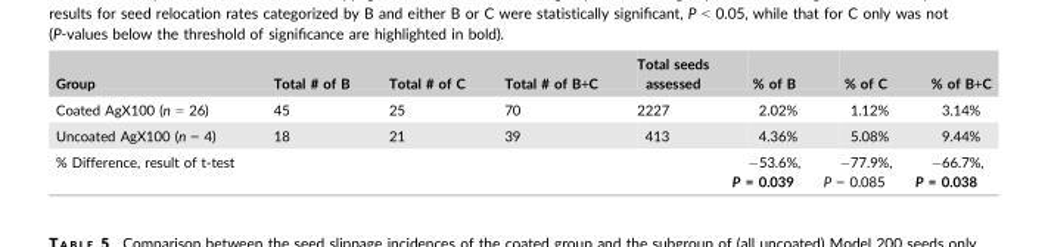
<table><thead><tr><td>Group</td><td>Total # of B</td><td>Total # of C</td><td>Total # of B+C</td><td>Total seeds assessed</td><td>% of B</td><td>% of C</td><td>% of B+C</td></tr></thead><tbody><tr><td>Coated AgX100 (n = 26)</td><td>45</td><td>25</td><td>70</td><td>2227</td><td>2.02%</td><td>1.12%</td><td>3.14%</td></tr><tr><td>Uncoated AgX100 (n = 4)</td><td>18</td><td>21</td><td>39</td><td>413</td><td>4.36%</td><td>5.08%</td><td>9.44%</td></tr><tr><td>% Difference, result of t-test</td><td></td><td></td><td></td><td></td><td>−53.6%, P = 0.039</td><td>−77.9%, P = 0.085</td><td>−66.7%, P = 0.038</td></tr></tbody></table>